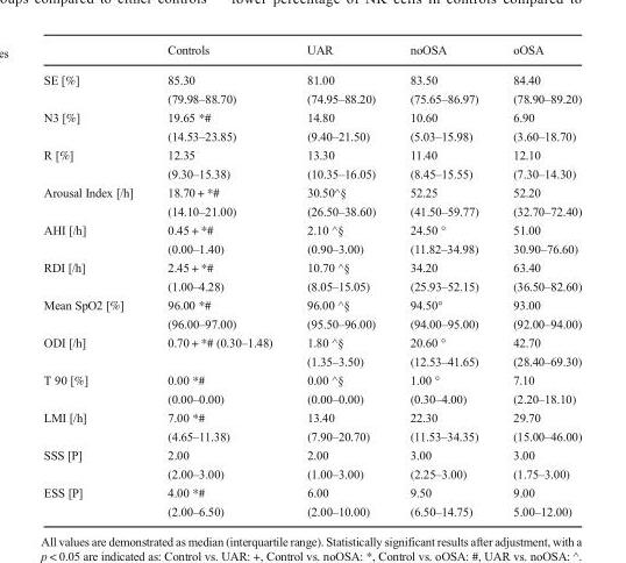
<table><thead><tr><td></td><td>Controls</td><td>UAR</td><td>noOSA</td><td>oOSA</td></tr></thead><tbody><tr><td>SE [%]</td><td>85.30 (79.98–88.70)</td><td>81.00 (74.95–88.20)</td><td>83.50 (75.65–86.97)</td><td>84.40 (78.90–89.20)</td></tr><tr><td>N3 [%]</td><td>19.65 *# (14.53–23.85)</td><td>14.80 (9.40–21.50)</td><td>10.60 (5.03–15.98)</td><td>6.90 (3.60–18.70)</td></tr><tr><td>R [%]</td><td>12.35 (9.30–15.38)</td><td>13.30 (10.35–16.05)</td><td>11.40 (8.45–15.55)</td><td>12.10 (7.30–14.30)</td></tr><tr><td>Arousal Index [/h]</td><td>18.70 + *# (14.10–21.00)</td><td>30.50^§ (26.50–38.60)</td><td>52.25 (41.50–59.77)</td><td>52.20 (32.70–72.40)</td></tr><tr><td>AHI [/h]</td><td>0.45 + *# (0.00–1.40)</td><td>2.10 ^§ (0.90–3.00)</td><td>24.50 ° (11.82–34.98)</td><td>51.00 30.90–76.60)</td></tr><tr><td>RDI [/h]</td><td>2.45 + *# (1.00–4.28)</td><td>10.70 ^§ (8.05–15.05)</td><td>34.20 (25.93–52.15)</td><td>63.40 (36.50–82.60)</td></tr><tr><td>Mean SpO2 [%]</td><td>96.00 *# (96.00–97.00)</td><td>96.00 ^§ (95.50–96.00)</td><td>94.50° (94.00–95.00)</td><td>93.00 (92.00–94.00)</td></tr><tr><td>ODI [/h]</td><td>0.70 + *# (0.30–1.48)</td><td>1.80 ^§ (1.35–3.50)</td><td>20.60 ° (12.53–41.65)</td><td>42.70 (28.40–69.30)</td></tr><tr><td>T 90 [%]</td><td>0.00 *# (0.00–0.00)</td><td>0.00 ^§ (0.00–0.00)</td><td>1.00 ° (0.30–4.00)</td><td>7.10 (2.20–18.10)</td></tr><tr><td>LMI [/h]</td><td>7.00 *# (4.65–11.38)</td><td>13.40 (7.90–20.70)</td><td>22.30 (11.53–34.35)</td><td>29.70 (15.00–46.00)</td></tr><tr><td>SSS [P]</td><td>2.00 (2.00–3.00)</td><td>2.00 (1.00–3.00)</td><td>3.00 (2.25–3.00)</td><td>3.00 (1.75–3.00)</td></tr><tr><td>ESS [P]</td><td>4.00 *# (2.00–6.50)</td><td>6.00 (2.00–10.00)</td><td>9.50 (6.50–14.75)</td><td>9.00 5.00–12.00)</td></tr></tbody></table>